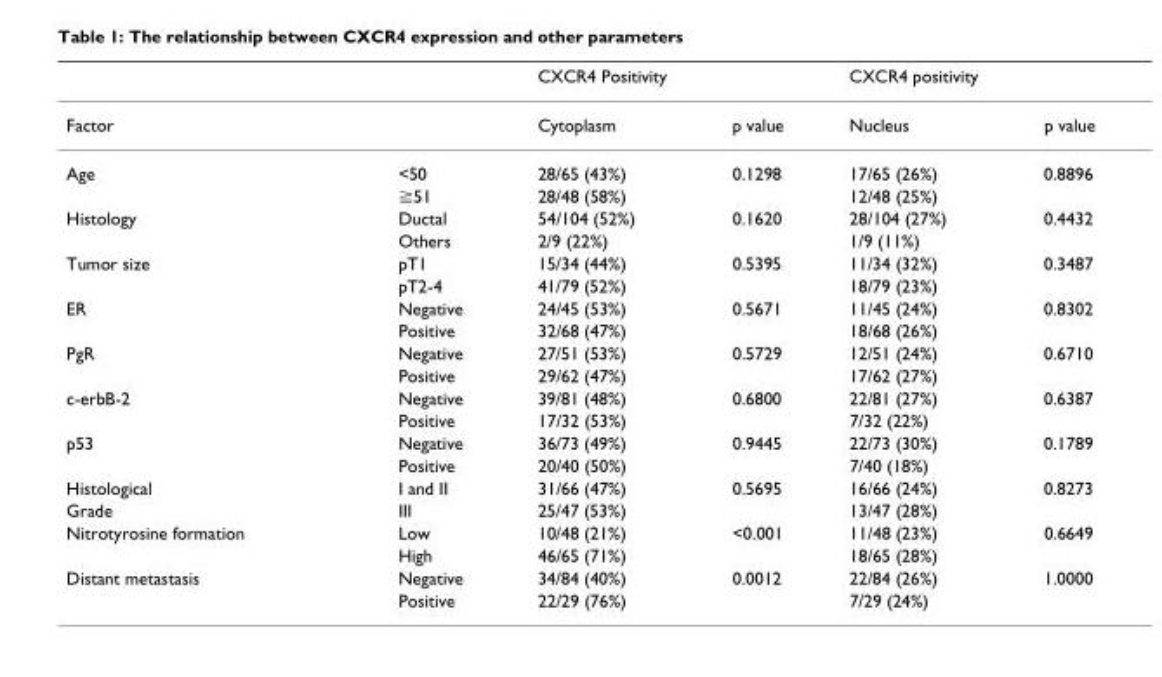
<table><thead><tr><td rowspan="2">Factor</td><td rowspan="2"></td><td colspan="2">CXCR4 Positivity</td><td colspan="2">CXCR4 positivity</td></tr><tr><td>Cytoplasm</td><td>p value</td><td>Nucleus</td><td>p value</td></tr></thead><tbody><tr><td rowspan="2">Age</td><td>&lt;50</td><td>28/65 (43%)</td><td>0.1298</td><td>17/65 (26%)</td><td>0.8896</td></tr><tr><td>≧51</td><td>28/48 (58%)</td><td></td><td>12/48 (25%)</td><td></td></tr><tr><td rowspan="2">Histology</td><td>Ductal</td><td>54/104 (52%)</td><td>0.1620</td><td>28/104 (27%)</td><td>0.4432</td></tr><tr><td>Others</td><td>2/9 (22%)</td><td></td><td>1/9 (11%)</td><td></td></tr><tr><td rowspan="2">Tumor size</td><td>pT1</td><td>15/34 (44%)</td><td>0.5395</td><td>11/34 (32%)</td><td>0.3487</td></tr><tr><td>pT2-4</td><td>41/79 (52%)</td><td></td><td>18/79 (23%)</td><td></td></tr><tr><td rowspan="2">ER</td><td>Negative</td><td>24/45 (53%)</td><td>0.5671</td><td>11/45 (24%)</td><td>0.8302</td></tr><tr><td>Positive</td><td>32/68 (47%)</td><td></td><td>18/68 (26%)</td><td></td></tr><tr><td rowspan="2">PgR</td><td>Negative</td><td>27/51 (53%)</td><td>0.5729</td><td>12/51 (24%)</td><td>0.6710</td></tr><tr><td>Positive</td><td>29/62 (47%)</td><td></td><td>17/62 (27%)</td><td></td></tr><tr><td rowspan="2">c-erbB-2</td><td>Negative</td><td>39/81 (48%)</td><td>0.6800</td><td>22/81 (27%)</td><td>0.6387</td></tr><tr><td>Positive</td><td>17/32 (53%)</td><td></td><td>7/32 (22%)</td><td></td></tr><tr><td rowspan="2">p53</td><td>Negative</td><td>36/73 (49%)</td><td>0.9445</td><td>22/73 (30%)</td><td>0.1789</td></tr><tr><td>Positive</td><td>20/40 (50%)</td><td></td><td>7/40 (18%)</td><td></td></tr><tr><td>Histological</td><td>I and II</td><td>31/66 (47%)</td><td>0.5695</td><td>16/66 (24%)</td><td>0.8273</td></tr><tr><td>Grade</td><td>III</td><td>25/47 (53%)</td><td></td><td>13/47 (28%)</td><td></td></tr><tr><td rowspan="2">Nitrotyrosine formation</td><td>Low</td><td>10/48 (21%)</td><td>&lt;0.001</td><td>11/48 (23%)</td><td>0.6649</td></tr><tr><td>High</td><td>46/65 (71%)</td><td></td><td>18/65 (28%)</td><td></td></tr><tr><td rowspan="2">Distant metastasis</td><td>Negative</td><td>34/84 (40%)</td><td>0.0012</td><td>22/84 (26%)</td><td>1.0000</td></tr><tr><td>Positive</td><td>22/29 (76%)</td><td></td><td>7/29 (24%)</td><td></td></tr></tbody></table>